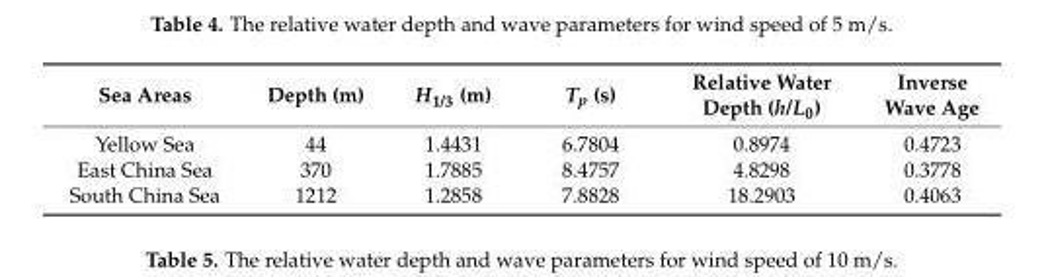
<table><thead><tr><td>Sea Areas</td><td>Depth (m)</td><td>H<sub>1/3</sub> (m)</td><td>T<sub>p</sub> (s)</td><td>Relative Water Depth (h/L<sub>0</sub>)</td><td>Inverse Wave Age</td></tr></thead><tbody><tr><td>Yellow Sea</td><td>44</td><td>1.4431</td><td>6.7804</td><td>0.8974</td><td>0.4723</td></tr><tr><td>East China Sea</td><td>370</td><td>1.7885</td><td>8.4757</td><td>4.8298</td><td>0.3778</td></tr><tr><td>South China Sea</td><td>1212</td><td>1.2858</td><td>7.8828</td><td>18.2903</td><td>0.4063</td></tr></tbody></table>